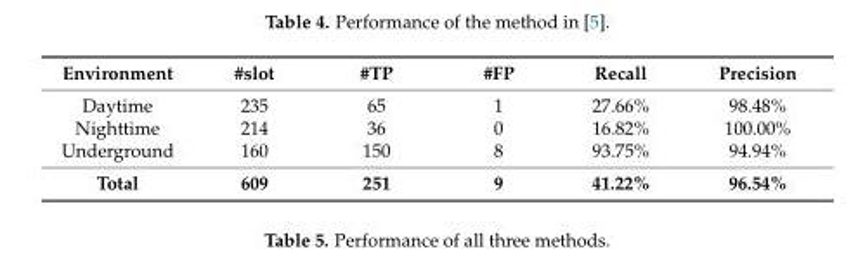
<table><thead><tr><td>Environment</td><td>#slot</td><td>#TP</td><td>#FP</td><td>Recall</td><td>Precision</td></tr></thead><tbody><tr><td>Daytime</td><td>235</td><td>65</td><td>1</td><td>27.66%</td><td>98.48%</td></tr><tr><td>Nighttime</td><td>214</td><td>36</td><td>0</td><td>16.82%</td><td>100.00%</td></tr><tr><td>Underground</td><td>160</td><td>150</td><td>8</td><td>93.75%</td><td>94.94%</td></tr><tr><td>Total</td><td>609</td><td>251</td><td>9</td><td>41.22%</td><td>96.54%</td></tr></tbody></table>